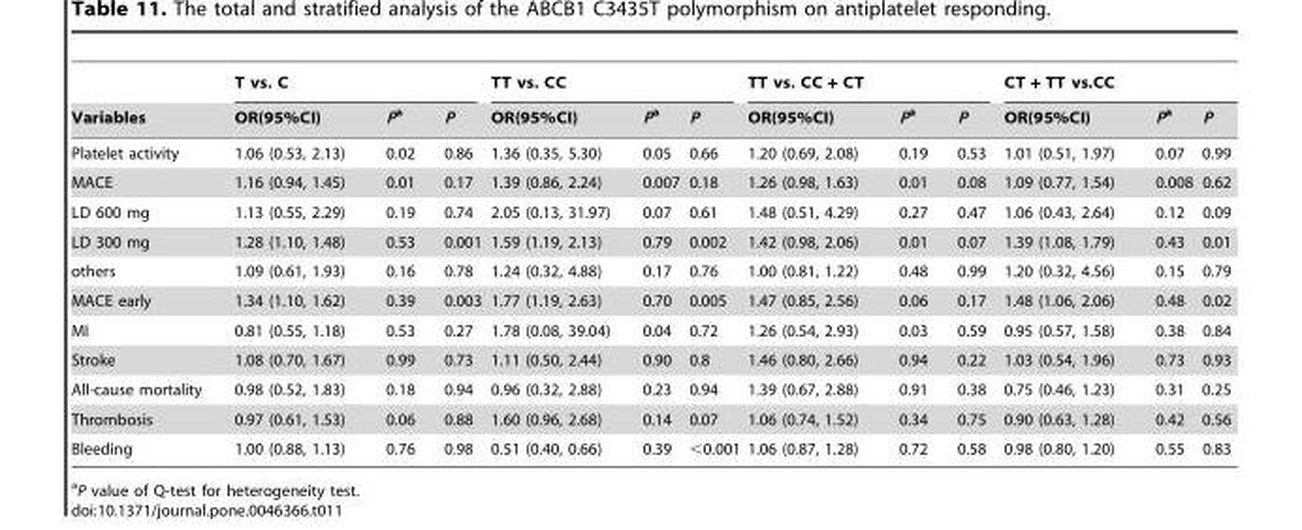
<table><thead><tr><td rowspan="2">Variables</td><td colspan="3">T vs. C</td><td colspan="3">TT vs. CC</td><td colspan="3">TT vs. CC + CT</td><td colspan="3">CT + TT vs.CC</td></tr><tr><td>OR(95%CI)</td><td>Pa</td><td>P</td><td>OR(95%CI)</td><td>Pa</td><td>P</td><td>OR(95%CI)</td><td>Pa</td><td>P</td><td>OR(95%CI)</td><td>Pa</td><td>P</td></tr></thead><tbody><tr><td>Platelet activity</td><td>1.06 (0.53, 2.13)</td><td>0.02</td><td>0.86</td><td>1.36 (0.35, 5.30)</td><td>0.05</td><td>0.66</td><td>1.20 (0.69, 2.08)</td><td>0.19</td><td>0.53</td><td>1.01 (0.51, 1.97)</td><td>0.07</td><td>0.99</td></tr><tr><td>MACE</td><td>1.16 (0.94, 1.45)</td><td>0.01</td><td>0.17</td><td>1.39 (0.86, 2.24)</td><td>0.007</td><td>0.18</td><td>1.26 (0.98, 1.63)</td><td>0.01</td><td>0.08</td><td>1.09 (0.77, 1.54)</td><td>0.008</td><td>0.62</td></tr><tr><td>LD 600 mg</td><td>1.13 (0.55, 2.29)</td><td>0.19</td><td>0.74</td><td>2.05 (0.13, 31.97)</td><td>0.07</td><td>0.61</td><td>1.48 (0.51, 4.29)</td><td>0.27</td><td>0.47</td><td>1.06 (0.43, 2.64)</td><td>0.12</td><td>0.09</td></tr><tr><td>LD 300 mg</td><td>1.28 (1.10, 1.48)</td><td>0.53</td><td>0.001</td><td>1.59 (1.19, 2.13)</td><td>0.79</td><td>0.002</td><td>1.42 (0.98, 2.06)</td><td>0.01</td><td>0.07</td><td>1.39 (1.08, 1.79)</td><td>0.43</td><td>0.01</td></tr><tr><td>others</td><td>1.09 (0.61, 1.93)</td><td>0.16</td><td>0.78</td><td>1.24 (0.32, 4.88)</td><td>0.17</td><td>0.76</td><td>1.00 (0.81, 1.22)</td><td>0.48</td><td>0.99</td><td>1.20 (0.32, 4.56)</td><td>0.15</td><td>0.79</td></tr><tr><td>MACE early</td><td>1.34 (1.10, 1.62)</td><td>0.39</td><td>0.003</td><td>1.77 (1.19, 2.63)</td><td>0.70</td><td>0.005</td><td>1.47 (0.85, 2.56)</td><td>0.06</td><td>0.17</td><td>1.48 (1.06, 2.06)</td><td>0.48</td><td>0.02</td></tr><tr><td>MI</td><td>0.81 (0.55, 1.18)</td><td>0.53</td><td>0.27</td><td>1.78 (0.08, 39.04)</td><td>0.04</td><td>0.72</td><td>1.26 (0.54, 2.93)</td><td>0.03</td><td>0.59</td><td>0.95 (0.57, 1.58)</td><td>0.38</td><td>0.84</td></tr><tr><td>Stroke</td><td>1.08 (0.70, 1.67)</td><td>0.99</td><td>0.73</td><td>1.11 (0.50, 2.44)</td><td>0.90</td><td>0.8</td><td>1.46 (0.80, 2.66)</td><td>0.94</td><td>0.22</td><td>1.03 (0.54, 1.96)</td><td>0.73</td><td>0.93</td></tr><tr><td>All-cause mortality</td><td>0.98 (0.52, 1.83)</td><td>0.18</td><td>0.94</td><td>0.96 (0.32, 2.88)</td><td>0.23</td><td>0.94</td><td>1.39 (0.67, 2.88)</td><td>0.91</td><td>0.38</td><td>0.75 (0.46, 1.23)</td><td>0.31</td><td>0.25</td></tr><tr><td>Thrombosis</td><td>0.97 (0.61, 1.53)</td><td>0.06</td><td>0.88</td><td>1.60 (0.96, 2.68)</td><td>0.14</td><td>0.07</td><td>1.06 (0.74, 1.52)</td><td>0.34</td><td>0.75</td><td>0.90 (0.63, 1.28)</td><td>0.42</td><td>0.56</td></tr><tr><td>Bleeding</td><td>1.00 (0.88, 1.13)</td><td>0.76</td><td>0.98</td><td>0.51 (0.40, 0.66)</td><td>0.39</td><td>&lt;0.001</td><td>1.06 (0.87, 1.28)</td><td>0.72</td><td>0.58</td><td>0.98 (0.80, 1.20)</td><td>0.55</td><td>0.83</td></tr></tbody></table>